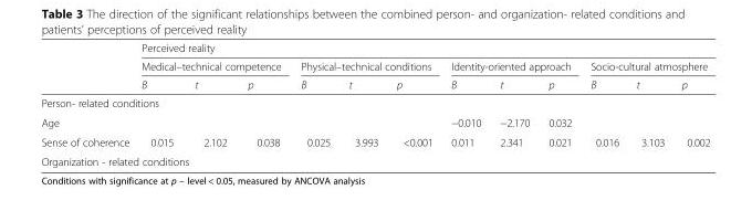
<table><thead><tr><td rowspan="3"></td><td colspan="12">Perceived reality</td></tr><tr><td colspan="3">Medical–technical competence</td><td colspan="3">Physical–technical conditions</td><td colspan="3">Identity-oriented approach</td><td colspan="3">Socio-cultural atmosphere</td></tr><tr><td>B</td><td>t</td><td>p</td><td>B</td><td>t</td><td>p</td><td>B</td><td>t</td><td>p</td><td>B</td><td>t</td><td>p</td></tr></thead><tbody><tr><td colspan="13">Person- related conditions</td></tr><tr><td>Age</td><td></td><td></td><td></td><td></td><td></td><td></td><td>−0.010</td><td>−2.170</td><td>0.032</td><td></td><td></td><td></td></tr><tr><td>Sense of coherence</td><td>0.015</td><td>2.102</td><td>0.038</td><td>0.025</td><td>3.993</td><td>&lt;0.001</td><td>0.011</td><td>2.341</td><td>0.021</td><td>0.016</td><td>3.103</td><td>0.002</td></tr><tr><td colspan="13">Organization - related conditions</td></tr></tbody></table>